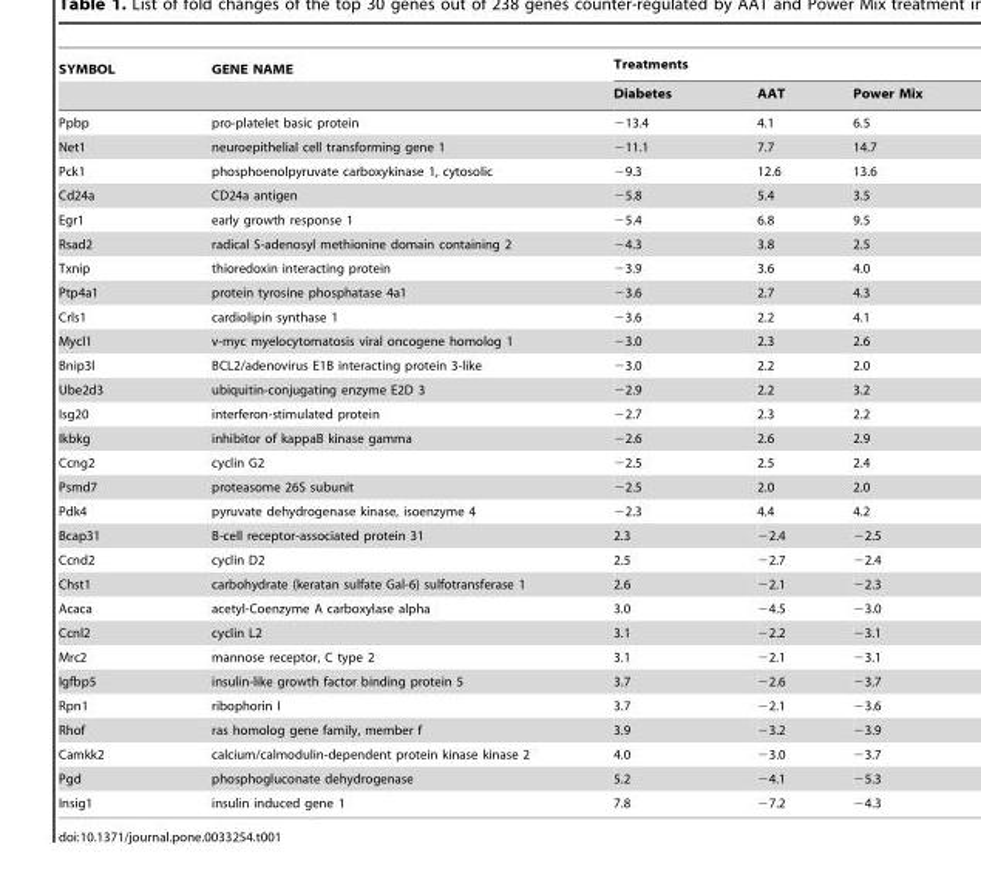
<table><thead><tr><td rowspan="2">SYMBOL</td><td rowspan="2">GENE NAME</td><td colspan="3">Treatments</td></tr><tr><td>Diabetes</td><td>AAT</td><td>Power Mix</td></tr></thead><tbody><tr><td>Ppbp</td><td>pro-platelet basic protein</td><td>−13.4</td><td>4.1</td><td>6.5</td></tr><tr><td>Net1</td><td>neuroepithelial cell transforming gene 1</td><td>−11.1</td><td>7.7</td><td>14.7</td></tr><tr><td>Pck1</td><td>phosphoenolpyruvate carboxykinase 1, cytosolic</td><td>−9.3</td><td>12.6</td><td>13.6</td></tr><tr><td>Cd24a</td><td>CD24a antigen</td><td>−5.8</td><td>5.4</td><td>3.5</td></tr><tr><td>Egr1</td><td>early growth response 1</td><td>−5.4</td><td>6.8</td><td>9.5</td></tr><tr><td>Rsad2</td><td>radical S-adenosyl methionine domain containing 2</td><td>−4.3</td><td>3.8</td><td>2.5</td></tr><tr><td>Txnip</td><td>thioredoxin interacting protein</td><td>−3.9</td><td>3.6</td><td>4.0</td></tr><tr><td>Ptp4a1</td><td>protein tyrosine phosphatase 4a1</td><td>−3.6</td><td>2.7</td><td>4.3</td></tr><tr><td>Crls1</td><td>cardiolipin synthase 1</td><td>−3.6</td><td>2.2</td><td>4.1</td></tr><tr><td>Mycl1</td><td>v-myc myelocytomatosis viral oncogene homolog 1</td><td>−3.0</td><td>2.3</td><td>2.6</td></tr><tr><td>Bnip3l</td><td>BCL2/adenovirus E1B interacting protein 3-like</td><td>−3.0</td><td>2.2</td><td>2.0</td></tr><tr><td>Ube2d3</td><td>ubiquitin-conjugating enzyme E2D 3</td><td>−2.9</td><td>2.2</td><td>3.2</td></tr><tr><td>Isg20</td><td>interferon-stimulated protein</td><td>−2.7</td><td>2.3</td><td>2.2</td></tr><tr><td>Ikbkg</td><td>inhibitor of kappaB kinase gamma</td><td>−2.6</td><td>2.6</td><td>2.9</td></tr><tr><td>Ccng2</td><td>cyclin G2</td><td>−2.5</td><td>2.5</td><td>2.4</td></tr><tr><td>Psmd7</td><td>proteasome 26S subunit</td><td>−2.5</td><td>2.0</td><td>2.0</td></tr><tr><td>Pdk4</td><td>pyruvate dehydrogenase kinase, isoenzyme 4</td><td>−2.3</td><td>4.4</td><td>4.2</td></tr><tr><td>Bcap31</td><td>B-cell receptor-associated protein 31</td><td>2.3</td><td>−2.4</td><td>−2.5</td></tr><tr><td>Ccnd2</td><td>cyclin D2</td><td>2.5</td><td>−2.7</td><td>−2.4</td></tr><tr><td>Chst1</td><td>carbohydrate (keratan sulfate Gal-6) sulfotransferase 1</td><td>2.6</td><td>−2.1</td><td>−2.3</td></tr><tr><td>Acaca</td><td>acetyl-Coenzyme A carboxylase alpha</td><td>3.0</td><td>−4.5</td><td>−3.0</td></tr><tr><td>Ccnl2</td><td>cyclin L2</td><td>3.1</td><td>−2.2</td><td>−3.1</td></tr><tr><td>Mrc2</td><td>mannose receptor, C type 2</td><td>3.1</td><td>−2.1</td><td>−3.1</td></tr><tr><td>Igfbp5</td><td>insulin-like growth factor binding protein 5</td><td>3.7</td><td>−2.6</td><td>−3.7</td></tr><tr><td>Rpn1</td><td>ribophorin I</td><td>3.7</td><td>−2.1</td><td>−3.6</td></tr><tr><td>Rhof</td><td>ras homolog gene family, member f</td><td>3.9</td><td>−3.2</td><td>−3.9</td></tr><tr><td>Camkk2</td><td>calcium/calmodulin-dependent protein kinase kinase 2</td><td>4.0</td><td>−3.0</td><td>−3.7</td></tr><tr><td>Pgd</td><td>phosphogluconate dehydrogenase</td><td>5.2</td><td>−4.1</td><td>−5.3</td></tr><tr><td>Insig1</td><td>insulin induced gene 1</td><td>7.8</td><td>−7.2</td><td>−4.3</td></tr></tbody></table>